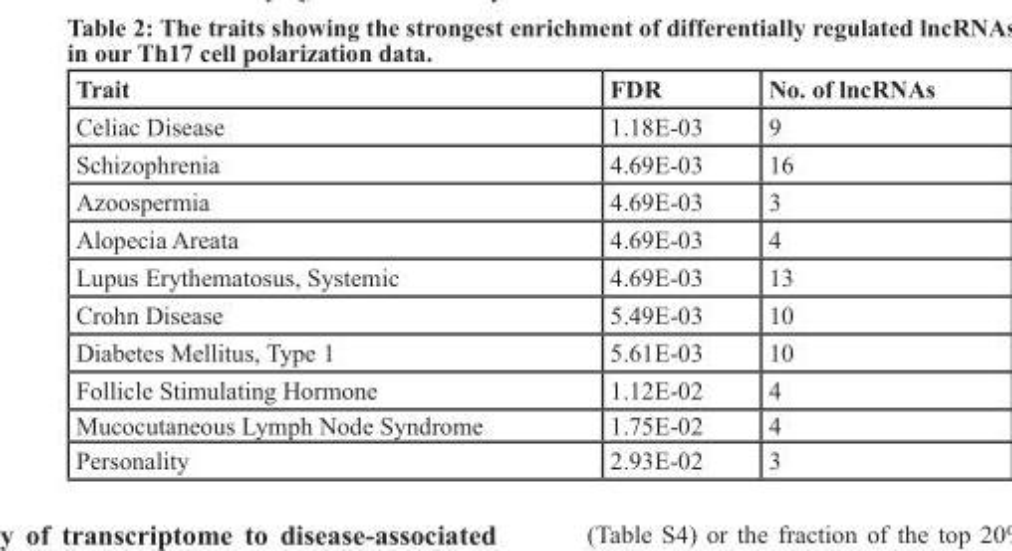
<table><thead><tr><td>Trait</td><td>FDR</td><td>No. of lncRNAs</td></tr></thead><tbody><tr><td>Celiac Disease</td><td>1.18E-03</td><td>9</td></tr><tr><td>Schizophrenia</td><td>4.69E-03</td><td>16</td></tr><tr><td>Azoospermia</td><td>4.69E-03</td><td>3</td></tr><tr><td>Alopecia Areata</td><td>4.69E-03</td><td>4</td></tr><tr><td>Lupus Erythematosus, Systemic</td><td>4.69E-03</td><td>13</td></tr><tr><td>Crohn Disease</td><td>5.49E-03</td><td>10</td></tr><tr><td>Diabetes Mellitus, Type 1</td><td>5.61E-03</td><td>10</td></tr><tr><td>Follicle Stimulating Hormone</td><td>1.12E-02</td><td>4</td></tr><tr><td>Mucocutaneous Lymph Node Syndrome</td><td>1.75E-02</td><td>4</td></tr><tr><td>Personality</td><td>2.93E-02</td><td>3</td></tr></tbody></table>